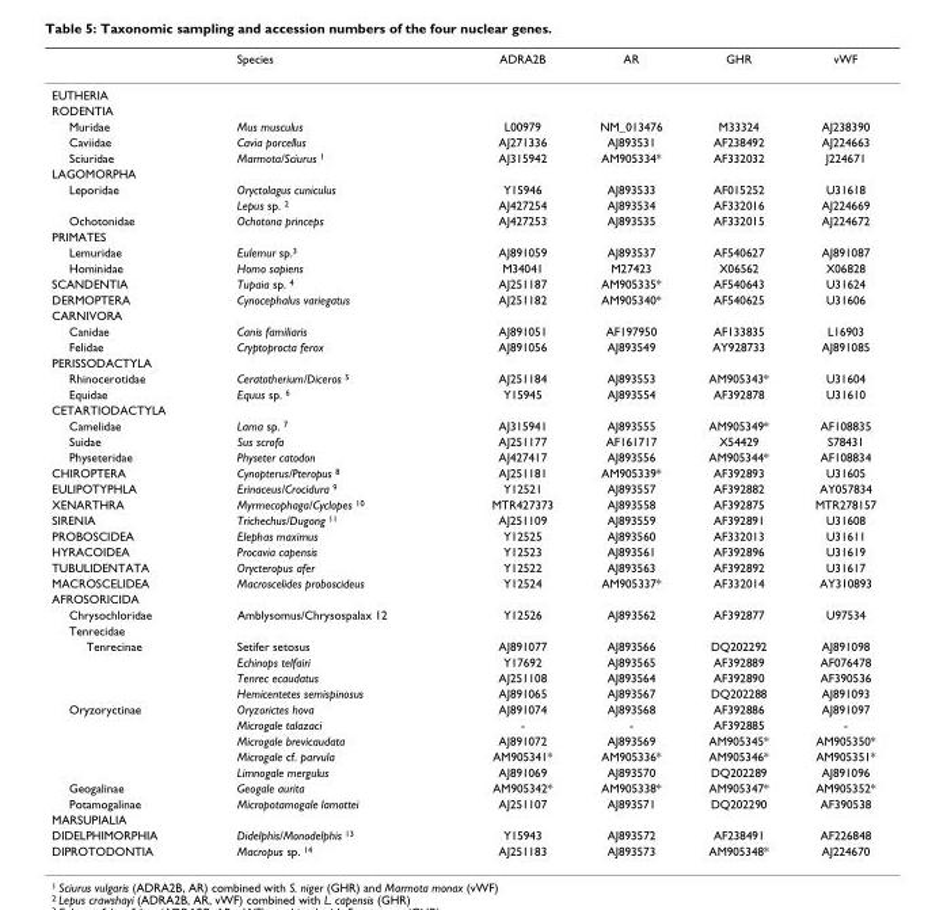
<table><thead><tr><td></td><td>Species</td><td>ADRA2B</td><td>AR</td><td>GHR</td><td>vWF</td></tr></thead><tbody><tr><td colspan="6">EUTHERIA</td></tr><tr><td colspan="6">RODENTIA</td></tr><tr><td>Muridae</td><td>Mus musculus</td><td>L00979</td><td>NM_013476</td><td>M33324</td><td>AJ238390</td></tr><tr><td>Caviidae</td><td>Cavia porcellus</td><td>AJ271336</td><td>AJ893531</td><td>AF238492</td><td>AJ224663</td></tr><tr><td>Sciuridae</td><td>Marmota/Sciurus <sup>1</sup></td><td>AJ315942</td><td>AM905334*</td><td>AF332032</td><td>J224671</td></tr><tr><td colspan="6">LAGOMORPHA</td></tr><tr><td rowspan="2">Leporidae</td><td>Oryctolagus cuniculus</td><td>Y15946</td><td>AJ893533</td><td>AF015252</td><td>U31618</td></tr><tr><td>Lepus sp. <sup>2</sup></td><td>AJ427254</td><td>AJ893534</td><td>AF332016</td><td>AJ224669</td></tr><tr><td>Ochotonidae</td><td>Ochotona princeps</td><td>AJ427253</td><td>AJ893535</td><td>AF332015</td><td>AJ224672</td></tr><tr><td colspan="6">PRIMATES</td></tr><tr><td>Lemuridae</td><td>Eulemur sp.<sup>3</sup></td><td>AJ891059</td><td>AJ893537</td><td>AF540627</td><td>AJ891087</td></tr><tr><td>Hominidae</td><td>Homo sapiens</td><td>M34041</td><td>M27423</td><td>X06562</td><td>X06828</td></tr><tr><td>SCANDENTIA</td><td>Tupaia sp. <sup>4</sup></td><td>AJ251187</td><td>AM905335*</td><td>AF540643</td><td>U31624</td></tr><tr><td>DERMOPTERA</td><td>Cynocephalus variegatus</td><td>AJ251182</td><td>AM905340*</td><td>AF540625</td><td>U31606</td></tr><tr><td colspan="6">CARNIVORA</td></tr><tr><td>Canidae</td><td>Canis familiaris</td><td>AJ891051</td><td>AF197950</td><td>AF133835</td><td>L16903</td></tr><tr><td>Felidae</td><td>Cryptoprocta ferox</td><td>AJ891056</td><td>AJ893549</td><td>AY928733</td><td>AJ891085</td></tr><tr><td colspan="6">PERISSODACTYLA</td></tr><tr><td>Rhinocerotidae</td><td>Ceratotherium/Diceros <sup>5</sup></td><td>AJ251184</td><td>AJ893553</td><td>AM905343*</td><td>U31604</td></tr><tr><td>Equidae</td><td>Equus sp. <sup>6</sup></td><td>Y15945</td><td>AJ893554</td><td>AF392878</td><td>U31610</td></tr><tr><td colspan="6">CETARTIODACTYLA</td></tr><tr><td>Camelidae</td><td>Lama sp. <sup>7</sup></td><td>AJ315941</td><td>AJ893555</td><td>AM905349*</td><td>AF108835</td></tr><tr><td>Suidae</td><td>Sus scrofa</td><td>AJ251177</td><td>AF161717</td><td>X54429</td><td>S78431</td></tr><tr><td>Physeteridae</td><td>Physeter catodon</td><td>AJ427417</td><td>AJ893556</td><td>AM905344*</td><td>AF108834</td></tr><tr><td>CHIROPTERA</td><td>Cynopterus/Pteropus <sup>8</sup></td><td>AJ251181</td><td>AM905339*</td><td>AF392893</td><td>U31605</td></tr><tr><td>EULIPOTYPHLA</td><td>Erinaceus/Crocidura <sup>9</sup></td><td>Y12521</td><td>AJ893557</td><td>AF392882</td><td>AY057834</td></tr><tr><td>XENARTHRA</td><td>Myrmecophaga/Cyclopes <sup>10</sup></td><td>MTR427373</td><td>AJ893558</td><td>AF392875</td><td>MTR278157</td></tr><tr><td>SIRENIA</td><td>Trichechus/Dugong <sup>11</sup></td><td>AJ251109</td><td>AJ893559</td><td>AF392891</td><td>U31608</td></tr><tr><td>PROBOSCIDEA</td><td>Elephas maximus</td><td>Y12525</td><td>AJ893560</td><td>AF332013</td><td>U31611</td></tr><tr><td>HYRACOIDEA</td><td>Procavia capensis</td><td>Y12523</td><td>AJ893561</td><td>AF392896</td><td>U31619</td></tr><tr><td>TUBULIDENTATA</td><td>Orycteropus afer</td><td>Y12522</td><td>AJ893563</td><td>AF392892</td><td>U31617</td></tr><tr><td>MACROSCELIDEA</td><td>Macroscelides proboscideus</td><td>Y12524</td><td>AM905337*</td><td>AF332014</td><td>AY310893</td></tr><tr><td colspan="6">AFROSORICIDA</td></tr><tr><td>Chrysochloridae</td><td>Amblysomus/Chrysospalax 12</td><td>Y12526</td><td>AJ893562</td><td>AF392877</td><td>U97534</td></tr><tr><td colspan="6">Tenrecidae</td></tr><tr><td rowspan="4">Tenrecinae</td><td>Setifer setosus</td><td>AJ891077</td><td>AJ893566</td><td>DQ202292</td><td>AJ891098</td></tr><tr><td>Echinops telfairi</td><td>Y17692</td><td>AJ893565</td><td>AF392889</td><td>AF076478</td></tr><tr><td>Tenrec ecaudatus</td><td>AJ251108</td><td>AJ893564</td><td>AF392890</td><td>AF390536</td></tr><tr><td>Hemicentetes semispinosus</td><td>AJ891065</td><td>AJ893567</td><td>DQ202288</td><td>AJ891093</td></tr><tr><td rowspan="5">Oryzoryctinae</td><td>Oryzorictes hova</td><td>AJ891074</td><td>AJ893568</td><td>AF392886</td><td>AJ891097</td></tr><tr><td>Microgale talazaci</td><td>-</td><td>-</td><td>AF392885</td><td>-</td></tr><tr><td>Microgale brevicaudata</td><td>AJ891072</td><td>AJ893569</td><td>AM905345*</td><td>AM905350*</td></tr><tr><td>Microgale cf. parvula</td><td>AM905341*</td><td>AM905336*</td><td>AM905346*</td><td>AM905351*</td></tr><tr><td>Limnogale mergulus</td><td>AJ891069</td><td>AJ893570</td><td>DQ202289</td><td>AJ891096</td></tr><tr><td>Geogalinae</td><td>Geogale aurita</td><td>AM905342*</td><td>AM905338*</td><td>AM905347*</td><td>AM905352*</td></tr><tr><td>Potamogalinae</td><td>Micropotamogale lamottei</td><td>AJ251107</td><td>AJ893571</td><td>DQ202290</td><td>AF390538</td></tr><tr><td colspan="6">MARSUPIALIA</td></tr><tr><td>DIDELPHIMORPHIA</td><td>Didelphis/Monodelphis <sup>13</sup></td><td>Y15943</td><td>AJ893572</td><td>AF238491</td><td>AF226848</td></tr><tr><td>DIPROTODONTIA</td><td>Macropus sp. <sup>14</sup></td><td>AJ251183</td><td>AJ893573</td><td>AM905348*</td><td>AJ224670</td></tr></tbody></table>